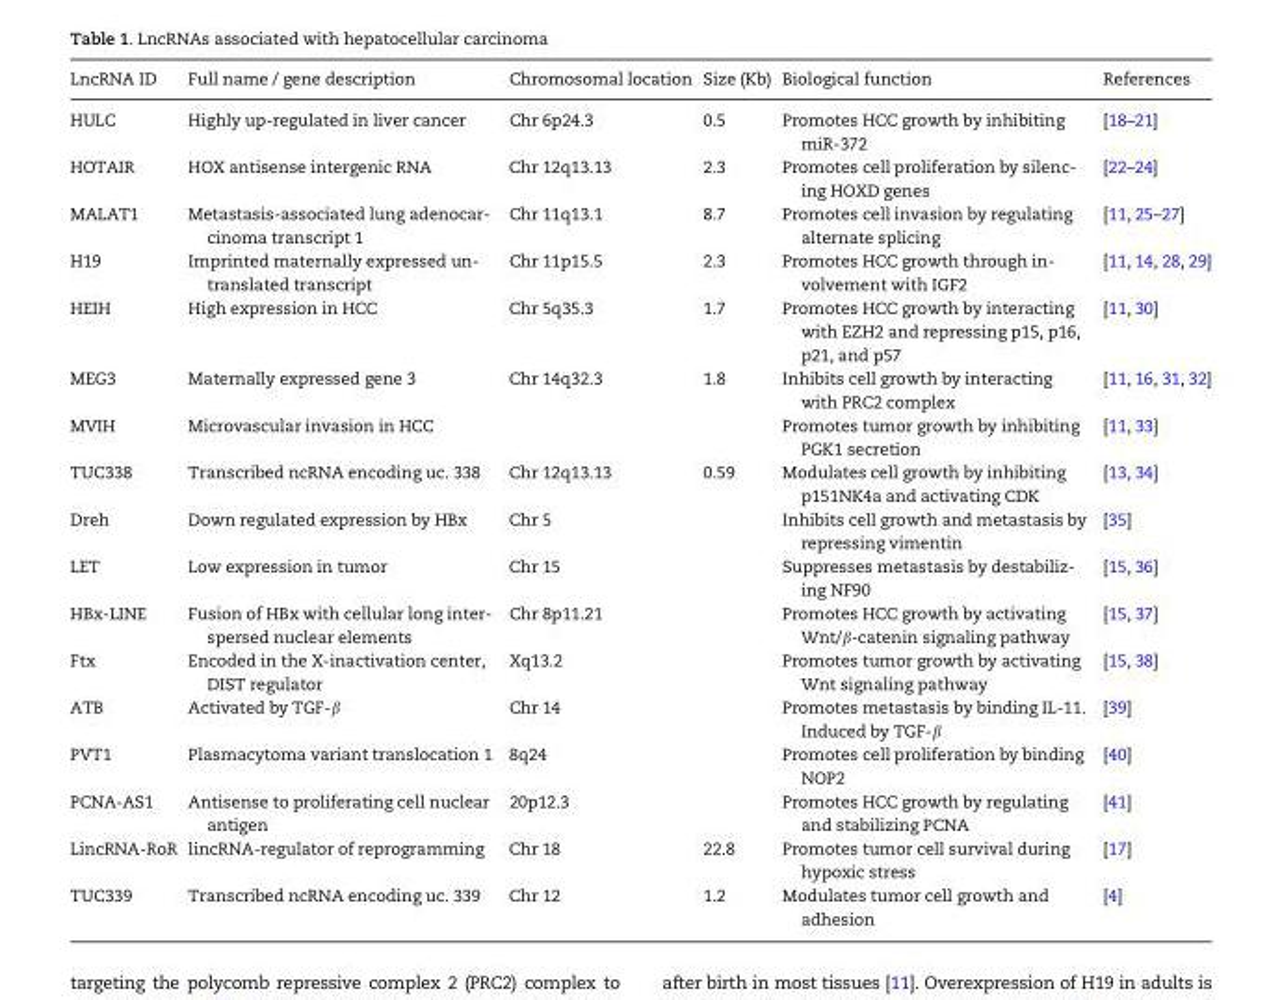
<table><thead><tr><td>LncRNA ID</td><td>Full name / gene description</td><td>Chromosomal location</td><td>Size (Kb)</td><td>Biological function</td><td>References</td></tr></thead><tbody><tr><td>HULC</td><td>Highly up-regulated in liver cancer</td><td>Chr 6p24.3</td><td>0.5</td><td>Promotes HCC growth by inhibiting miR-372</td><td>[18–21]</td></tr><tr><td>HOTAIR</td><td>HOX antisense intergenic RNA</td><td>Chr 12q13.13</td><td>2.3</td><td>Promotes cell proliferation by silenc- ing HOXD genes</td><td>[22–24]</td></tr><tr><td>MALAT1</td><td>Metastasis-associated lung adenocar- cinoma transcript 1</td><td>Chr 11q13.1</td><td>8.7</td><td>Promotes cell invasion by regulating alternate splicing</td><td>[11, 25–27]</td></tr><tr><td>H19</td><td>Imprinted maternally expressed un- translated transcript</td><td>Chr 11p15.5</td><td>2.3</td><td>Promotes HCC growth through in- volvement with IGF2</td><td>[11, 14, 28, 29]</td></tr><tr><td>HEIH</td><td>High expression in HCC</td><td>Chr 5q35.3</td><td>1.7</td><td>Promotes HCC growth by interacting with EZH2 and repressing p15, p16, p21, and p57</td><td>[11, 30]</td></tr><tr><td>MEG3</td><td>Maternally expressed gene 3</td><td>Chr 14q32.3</td><td>1.8</td><td>Inhibits cell growth by interacting with PRC2 complex</td><td>[11, 16, 31, 32]</td></tr><tr><td>MVIH</td><td>Microvascular invasion in HCC</td><td></td><td></td><td>Promotes tumor growth by inhibiting PGK1 secretion</td><td>[11, 33]</td></tr><tr><td>TUC338</td><td>Transcribed ncRNA encoding uc. 338</td><td>Chr 12q13.13</td><td>0.59</td><td>Modulates cell growth by inhibiting p151NK4a and activating CDK</td><td>[13, 34]</td></tr><tr><td>Dreh</td><td>Down regulated expression by HBx</td><td>Chr 5</td><td></td><td>Inhibits cell growth and metastasis by repressing vimentin</td><td>[35]</td></tr><tr><td>LET</td><td>Low expression in tumor</td><td>Chr 15</td><td></td><td>Suppresses metastasis by destabiliz- ing NF90</td><td>[15, 36]</td></tr><tr><td>HBx-LINE</td><td>Fusion of HBx with cellular long inter- spersed nuclear elements</td><td>Chr 8p11.21</td><td></td><td>Promotes HCC growth by activating Wnt/β-catenin signaling pathway</td><td>[15, 37]</td></tr><tr><td>Ftx</td><td>Encoded in the X-inactivation center, DIST regulator</td><td>Xq13.2</td><td></td><td>Promotes tumor growth by activating Wnt signaling pathway</td><td>[15, 38]</td></tr><tr><td>ATB</td><td>Activated by TGF-β</td><td>Chr 14</td><td></td><td>Promotes metastasis by binding IL-11. Induced by TGF-β</td><td>[39]</td></tr><tr><td>PVT1</td><td>Plasmacytoma variant translocation 1</td><td>8q24</td><td></td><td>Promotes cell proliferation by binding NOP2</td><td>[40]</td></tr><tr><td>PCNA-AS1</td><td>Antisense to proliferating cell nuclear antigen</td><td>20p12.3</td><td></td><td>Promotes HCC growth by regulating and stabilizing PCNA</td><td>[41]</td></tr><tr><td>LincRNA-RoR</td><td>lincRNA-regulator of reprogramming</td><td>Chr 18</td><td>22.8</td><td>Promotes tumor cell survival during hypoxic stress</td><td>[17]</td></tr><tr><td>TUC339</td><td>Transcribed ncRNA encoding uc. 339</td><td>Chr 12</td><td>1.2</td><td>Modulates tumor cell growth and adhesion</td><td>[4]</td></tr></tbody></table>